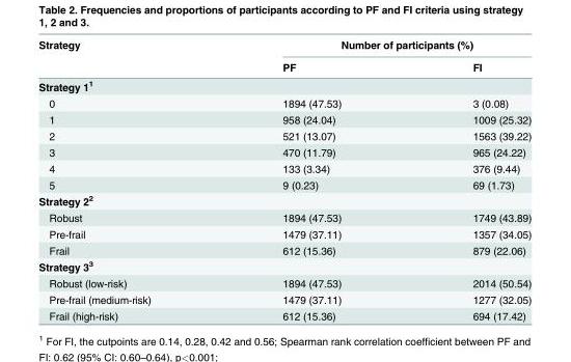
<table><thead><tr><td rowspan="2">Strategy</td><td colspan="2">Number of participants (%)</td></tr><tr><td>PF</td><td>FI</td></tr></thead><tbody><tr><td colspan="3">Strategy 1<sup>1</sup></td></tr><tr><td>0</td><td>1894 (47.53)</td><td>3 (0.08)</td></tr><tr><td>1</td><td>958 (24.04)</td><td>1009 (25.32)</td></tr><tr><td>2</td><td>521 (13.07)</td><td>1563 (39.22)</td></tr><tr><td>3</td><td>470 (11.79)</td><td>965 (24.22)</td></tr><tr><td>4</td><td>133 (3.34)</td><td>376 (9.44)</td></tr><tr><td>5</td><td>9 (0.23)</td><td>69 (1.73)</td></tr><tr><td colspan="3">Strategy 2<sup>2</sup></td></tr><tr><td>Robust</td><td>1894 (47.53)</td><td>1749 (43.89)</td></tr><tr><td>Pre-frail</td><td>1479 (37.11)</td><td>1357 (34.05)</td></tr><tr><td>Frail</td><td>612 (15.36)</td><td>879 (22.06)</td></tr><tr><td colspan="3">Strategy 3<sup>3</sup></td></tr><tr><td>Robust (low-risk)</td><td>1894 (47.53)</td><td>2014 (50.54)</td></tr><tr><td>Pre-frail (medium-risk)</td><td>1479 (37.11)</td><td>1277 (32.05)</td></tr><tr><td>Frail (high-risk)</td><td>612 (15.36)</td><td>694 (17.42)</td></tr></tbody></table>